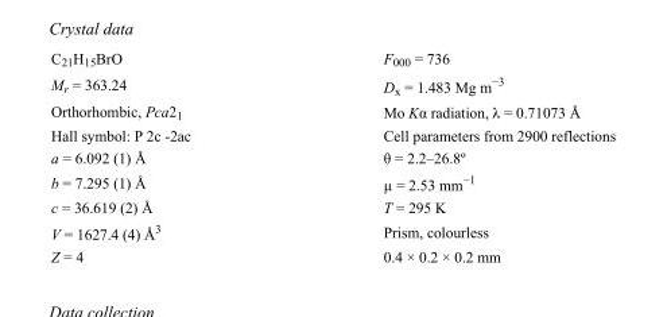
<table><tbody><tr><td>C<sub>21</sub>H<sub>15</sub>BrO</td><td>F000 = 736</td></tr><tr><td>M<sub>r</sub> = 363.24</td><td>D<sub>x</sub> = 1.483 Mg m<sup>−3</sup></td></tr><tr><td>Orthorhombic, Pca2<sub>1</sub></td><td>Mo Kα radiation, λ = 0.71073 Å</td></tr><tr><td>Hall symbol: P 2c -2ac</td><td>Cell parameters from 2900 reflections</td></tr><tr><td>a = 6.092 (1) Å</td><td>θ = 2.2–26.8º</td></tr><tr><td>b = 7.295 (1) Å</td><td>µ = 2.53 mm<sup>−1</sup></td></tr><tr><td>c = 36.619 (2) Å</td><td>T = 295 K</td></tr><tr><td>V = 1627.4 (4) Å<sup>3</sup></td><td>Prism, colourless</td></tr><tr><td>Z = 4</td><td>0.4 × 0.2 × 0.2 mm</td></tr></tbody></table>